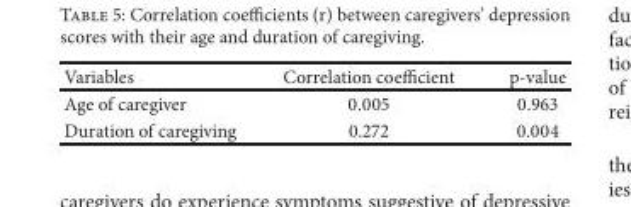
<table><thead><tr><td>Variables</td><td>Correlation coefficient</td><td>p-value</td></tr></thead><tbody><tr><td>Age of caregiver</td><td>0.005</td><td>0.963</td></tr><tr><td>Duration of caregiving</td><td>0.272</td><td>0.004</td></tr></tbody></table>